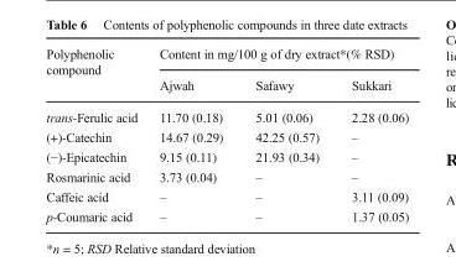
<table><thead><tr><td rowspan="2">Polyphenolic compound</td><td colspan="3">Content in mg/100 g of dry extract*(% RSD)</td></tr><tr><td>Ajwah</td><td>Safawy</td><td>Sukkari</td></tr></thead><tbody><tr><td>trans-Ferulic acid</td><td>11.70 (0.18)</td><td>5.01 (0.06)</td><td>2.28 (0.06)</td></tr><tr><td>(+)-Catechin</td><td>14.67 (0.29)</td><td>42.25 (0.57)</td><td>–</td></tr><tr><td>(−)-Epicatechin</td><td>9.15 (0.11)</td><td>21.93 (0.34)</td><td>–</td></tr><tr><td>Rosmarinic acid</td><td>3.73 (0.04)</td><td>–</td><td>–</td></tr><tr><td>Caffeic acid</td><td>–</td><td>–</td><td>3.11 (0.09)</td></tr><tr><td>p-Coumaric acid</td><td>–</td><td>–</td><td>1.37 (0.05)</td></tr></tbody></table>